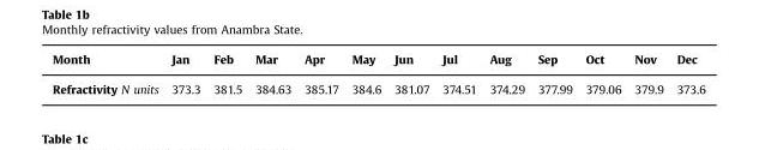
<table><thead><tr><td>Month</td><td>Jan</td><td>Feb</td><td>Mar</td><td>Apr</td><td>May</td><td>Jun</td><td>Jul</td><td>Aug</td><td>Sep</td><td>Oct</td><td>Nov</td><td>Dec</td></tr></thead><tbody><tr><td>Refractivity N units</td><td>373.3</td><td>381.5</td><td>384.63</td><td>385.17</td><td>384.6</td><td>381.07</td><td>374.51</td><td>374.29</td><td>377.99</td><td>379.06</td><td>379.9</td><td>373.6</td></tr></tbody></table>